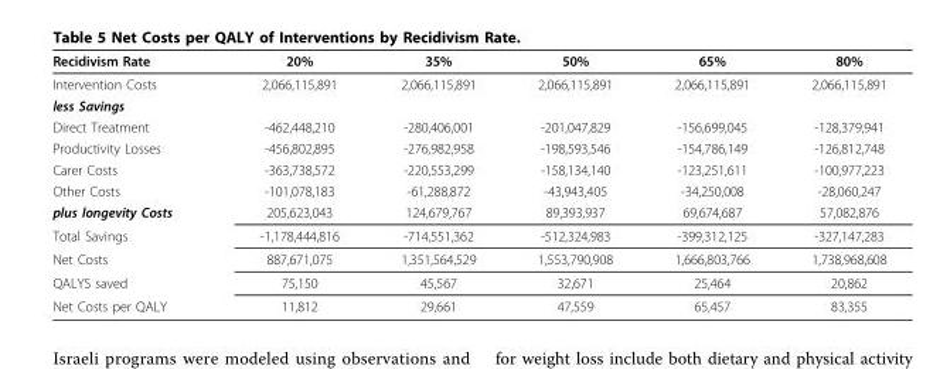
<table><thead><tr><td>Recidivism Rate</td><td>20%</td><td>35%</td><td>50%</td><td>65%</td><td>80%</td></tr></thead><tbody><tr><td>Intervention Costs</td><td>2,066,115,891</td><td>2,066,115,891</td><td>2,066,115,891</td><td>2,066,115,891</td><td>2,066,115,891</td></tr><tr><td colspan="6">less Savings</td></tr><tr><td>Direct Treatment</td><td>-462,448,210</td><td>-280,406,001</td><td>-201,047,829</td><td>-156,699,045</td><td>-128,379,941</td></tr><tr><td>Productivity Losses</td><td>-456,802,895</td><td>-276,982,958</td><td>-198,593,546</td><td>-154,786,149</td><td>-126,812,748</td></tr><tr><td>Carer Costs</td><td>-363,738,572</td><td>-220,553,299</td><td>-158,134,140</td><td>-123,251,611</td><td>-100,977,223</td></tr><tr><td>Other Costs</td><td>-101,078,183</td><td>-61,288,872</td><td>-43,943,405</td><td>-34,250,008</td><td>-28,060,247</td></tr><tr><td>plus longevity Costs</td><td>205,623,043</td><td>124,679,767</td><td>89,393,937</td><td>69,674,687</td><td>57,082,876</td></tr><tr><td>Total Savings</td><td>-1,178,444,816</td><td>-714,551,362</td><td>-512,324,983</td><td>-399,312,125</td><td>-327,147,283</td></tr><tr><td>Net Costs</td><td>887,671,075</td><td>1,351,564,529</td><td>1,553,790,908</td><td>1,666,803,766</td><td>1,738,968,608</td></tr><tr><td>QALYS saved</td><td>75,150</td><td>45,567</td><td>32,671</td><td>25,464</td><td>20,862</td></tr><tr><td>Net Costs per QALY</td><td>11,812</td><td>29,661</td><td>47,559</td><td>65,457</td><td>83,355</td></tr></tbody></table>